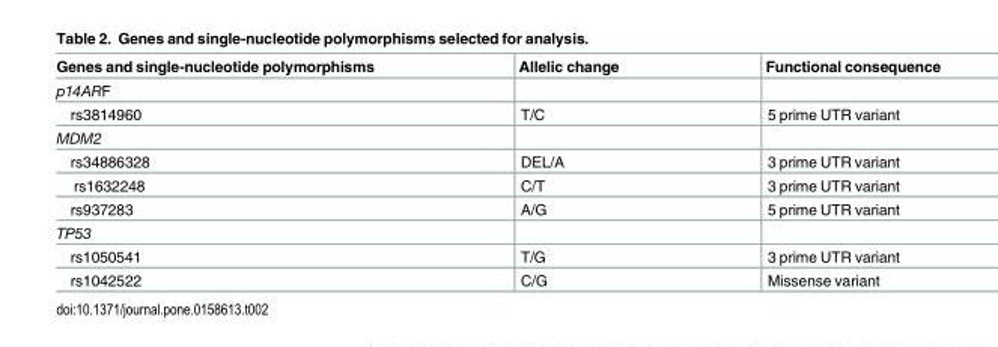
<table><thead><tr><td>Genes and single-nucleotide polymorphisms</td><td>Allelic change</td><td>Functional consequence</td></tr></thead><tbody><tr><td colspan="3">p14ARF</td></tr><tr><td>rs3814960</td><td>T/C</td><td>5 prime UTR variant</td></tr><tr><td colspan="3">MDM2</td></tr><tr><td>rs34886328</td><td>DEL/A</td><td>3 prime UTR variant</td></tr><tr><td>rs1632248</td><td>C/T</td><td>3 prime UTR variant</td></tr><tr><td>rs937283</td><td>A/G</td><td>5 prime UTR variant</td></tr><tr><td colspan="3">TP53</td></tr><tr><td>rs1050541</td><td>T/G</td><td>3 prime UTR variant</td></tr><tr><td>rs1042522</td><td>C/G</td><td>Missense variant</td></tr></tbody></table>